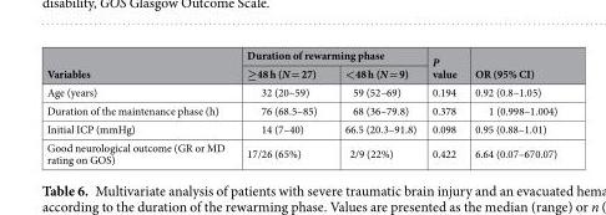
<table><thead><tr><td rowspan="2">Variables</td><td colspan="2">Duration of rewarming phase</td><td rowspan="2">P value</td><td rowspan="2">OR (95% CI)</td></tr><tr><td>≥48 h (N = 27)</td><td>&lt;48 h (N = 9)</td></tr></thead><tbody><tr><td>Age (years)</td><td>32 (20–59)</td><td>59 (52–69)</td><td>0.194</td><td>0.92 (0.8–1.05)</td></tr><tr><td>Duration of the maintenance phase (h)</td><td>76 (68.5–85)</td><td>68 (36–79.8)</td><td>0.378</td><td>1 (0.998–1.004)</td></tr><tr><td>Initial ICP (mmHg)</td><td>14 (7–40)</td><td>66.5 (20.3–91.8)</td><td>0.098</td><td>0.95 (0.88–1.01)</td></tr><tr><td>Good neurological outcome (GR or MD rating on GOS)</td><td>17/26 (65%)</td><td>2/9 (22%)</td><td>0.422</td><td>6.64 (0.07–670.07)</td></tr></tbody></table>